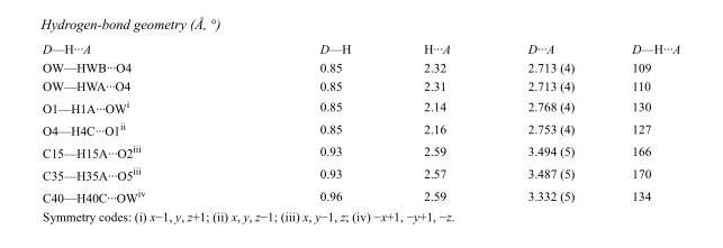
<table><tbody><tr><td>D—H···A</td><td>D—H</td><td>H···A</td><td>D···A</td><td>D—H···A</td></tr><tr><td>OW—HWB···O4</td><td>0.85</td><td>2.32</td><td>2.713 (4)</td><td>109</td></tr><tr><td>OW—HWA···O4</td><td>0.85</td><td>2.31</td><td>2.713 (4)</td><td>110</td></tr><tr><td>O1—H1A···OW<sup>i</sup></td><td>0.85</td><td>2.14</td><td>2.768 (4)</td><td>130</td></tr><tr><td>O4—H4C···O1<sup>ii</sup></td><td>0.85</td><td>2.16</td><td>2.753 (4)</td><td>127</td></tr><tr><td>C15—H15A···O2<sup>iii</sup></td><td>0.93</td><td>2.59</td><td>3.494 (5)</td><td>166</td></tr><tr><td>C35—H35A···O5<sup>iii</sup></td><td>0.93</td><td>2.57</td><td>3.487 (5)</td><td>170</td></tr><tr><td>C40—H40C···OW<sup>iv</sup></td><td>0.96</td><td>2.59</td><td>3.332 (5)</td><td>134</td></tr></tbody></table>